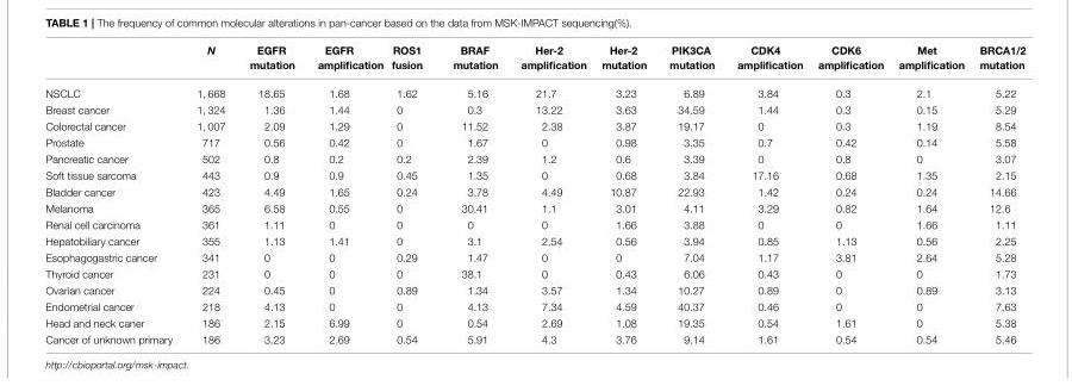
<table><thead><tr><td></td><td>N</td><td>EGFR mutation</td><td>EGFR amplification</td><td>ROS1 fusion</td><td>BRAF mutation</td><td>Her-2 amplification</td><td>Her-2 mutation</td><td>PIK3CA mutation</td><td>CDK4 amplification</td><td>CDK6 amplification</td><td>Met amplification</td><td>BRCA1/2 mutation</td></tr></thead><tbody><tr><td>NSCLC</td><td>1, 668</td><td>18.65</td><td>1.68</td><td>1.62</td><td>5.16</td><td>21.7</td><td>3.23</td><td>6.89</td><td>3.84</td><td>0.3</td><td>2.1</td><td>5.22</td></tr><tr><td>Breast cancer</td><td>1, 324</td><td>1.36</td><td>1.44</td><td>0</td><td>0.3</td><td>13.22</td><td>3.63</td><td>34.59</td><td>1.44</td><td>0.3</td><td>0.15</td><td>5.29</td></tr><tr><td>Colorectal cancer</td><td>1, 007</td><td>2.09</td><td>1.29</td><td>0</td><td>11.52</td><td>2.38</td><td>3.87</td><td>19.17</td><td>0</td><td>0.3</td><td>1.19</td><td>8.54</td></tr><tr><td>Prostate</td><td>717</td><td>0.56</td><td>0.42</td><td>0</td><td>1.67</td><td>0</td><td>0.98</td><td>3.35</td><td>0.7</td><td>0.42</td><td>0.14</td><td>5.58</td></tr><tr><td>Pancreatic cancer</td><td>502</td><td>0.8</td><td>0.2</td><td>0.2</td><td>2.39</td><td>1.2</td><td>0.6</td><td>3.39</td><td>0</td><td>0.8</td><td>0</td><td>3.07</td></tr><tr><td>Soft tissue sarcoma</td><td>443</td><td>0.9</td><td>0.9</td><td>0.45</td><td>1.35</td><td>0</td><td>0.68</td><td>3.84</td><td>17.16</td><td>0.68</td><td>1.35</td><td>2.15</td></tr><tr><td>Bladder cancer</td><td>423</td><td>4.49</td><td>1.65</td><td>0.24</td><td>3.78</td><td>4.49</td><td>10.87</td><td>22.93</td><td>1.42</td><td>0.24</td><td>0.24</td><td>14.66</td></tr><tr><td>Melanoma</td><td>365</td><td>6.58</td><td>0.55</td><td>0</td><td>30.41</td><td>1.1</td><td>3.01</td><td>4.11</td><td>3.29</td><td>0.82</td><td>1.64</td><td>12.6</td></tr><tr><td>Renal cell carcinoma</td><td>361</td><td>1.11</td><td>0</td><td>0</td><td>0</td><td>0</td><td>1.66</td><td>3.88</td><td>0</td><td>0</td><td>1.66</td><td>1.11</td></tr><tr><td>Hepatobiliary cancer</td><td>355</td><td>1.13</td><td>1.41</td><td>0</td><td>3.1</td><td>2.54</td><td>0.56</td><td>3.94</td><td>0.85</td><td>1.13</td><td>0.56</td><td>2.25</td></tr><tr><td>Esophagogastric cancer</td><td>341</td><td>0</td><td>0</td><td>0.29</td><td>1.47</td><td>0</td><td>0</td><td>7.04</td><td>1.17</td><td>3.81</td><td>2.64</td><td>5.28</td></tr><tr><td>Thyroid cancer</td><td>231</td><td>0</td><td>0</td><td>0</td><td>38.1</td><td>0</td><td>0.43</td><td>6.06</td><td>0.43</td><td>0</td><td>0</td><td>1.73</td></tr><tr><td>Ovarian cancer</td><td>224</td><td>0.45</td><td>0</td><td>0.89</td><td>1.34</td><td>3.57</td><td>1.34</td><td>10.27</td><td>0.89</td><td>0</td><td>0.89</td><td>3.13</td></tr><tr><td>Endometrial cancer</td><td>218</td><td>4.13</td><td>0</td><td>0</td><td>4.13</td><td>7.34</td><td>4.59</td><td>40.37</td><td>0.46</td><td>0</td><td>0</td><td>7.63</td></tr><tr><td>Head and neck caner</td><td>186</td><td>2.15</td><td>6.99</td><td>0</td><td>0.54</td><td>2.69</td><td>1.08</td><td>19.35</td><td>0.54</td><td>1.61</td><td>0</td><td>5.38</td></tr><tr><td>Cancer of unknown primary</td><td>186</td><td>3.23</td><td>2.69</td><td>0.54</td><td>5.91</td><td>4.3</td><td>3.76</td><td>9.14</td><td>1.61</td><td>0.54</td><td>0.54</td><td>5.46</td></tr></tbody></table>